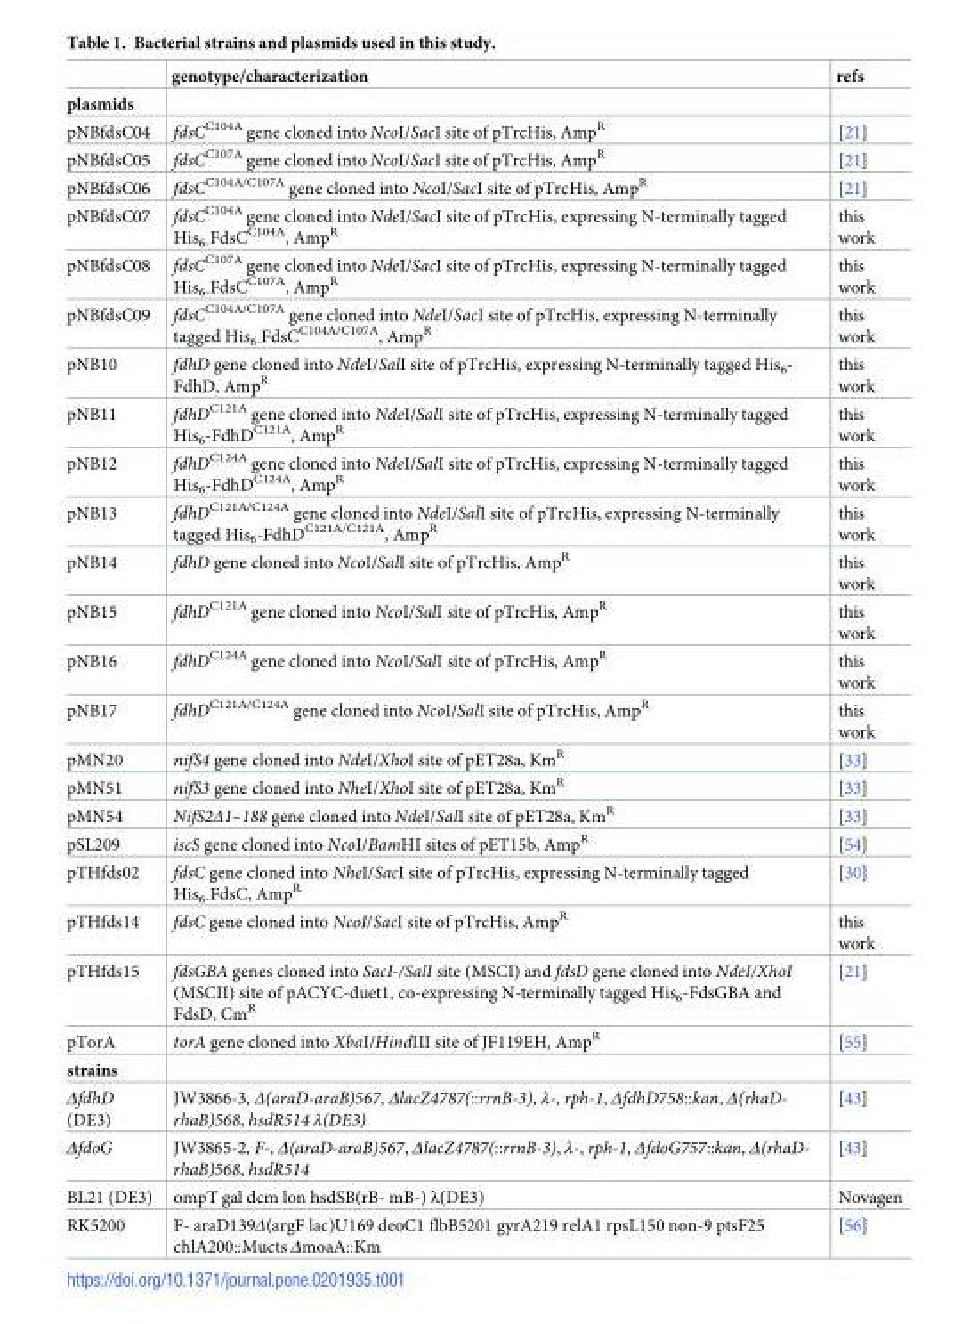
<table><thead><tr><td></td><td>genotype/characterization</td><td>refs</td></tr></thead><tbody><tr><td colspan="3">plasmids</td></tr><tr><td>pNBfdsC04</td><td>fdsC<sup>C104A</sup> gene cloned into NcoI/SacI site of pTrcHis, Amp<sup>R</sup></td><td>[21]</td></tr><tr><td>pNBfdsC05</td><td>fdsC<sup>C107A</sup> gene cloned into NcoI/SacI site of pTrcHis, Amp<sup>R</sup></td><td>[21]</td></tr><tr><td>pNBfdsC06</td><td>fdsC<sup>C104A/C107A</sup> gene cloned into NcoI/SacI site of pTrcHis, Amp<sup>R</sup></td><td>[21]</td></tr><tr><td>pNBfdsC07</td><td>fdsC<sup>C104A</sup> gene cloned into NdeI/SacI site of pTrcHis, expressing N-terminally tagged His<sub>6-</sub>FdsC<sup>C104A</sup>, Amp<sup>R</sup></td><td>this work</td></tr><tr><td>pNBfdsC08</td><td>fdsC<sup>C107A</sup> gene cloned into NdeI/SacI site of pTrcHis, expressing N-terminally tagged His<sub>6-</sub>FdsC<sup>C107A</sup>, Amp<sup>R</sup></td><td>this work</td></tr><tr><td>pNBfdsC09</td><td>fdsC<sup>C104A/C107A</sup> gene cloned into NdeI/SacI site of pTrcHis, expressing N-terminally tagged His<sub>6-</sub>FdsC<sup>C104A/C107A</sup>, Amp<sup>R</sup></td><td>this work</td></tr><tr><td>pNB10</td><td>fdhD gene cloned into NdeI/SalI site of pTrcHis, expressing N-terminally tagged His<sub>6</sub>- FdhD, Amp<sup>R</sup></td><td>this work</td></tr><tr><td>pNB11</td><td>fdhD<sup>C121A</sup> gene cloned into NdeI/SalI site of pTrcHis, expressing N-terminally tagged His<sub>6</sub>-FdhD<sup>C121A</sup>, Amp<sup>R</sup></td><td>this work</td></tr><tr><td>pNB12</td><td>fdhD<sup>C124A</sup> gene cloned into NdeI/SalI site of pTrcHis, expressing N-terminally tagged His<sub>6</sub>-FdhD<sup>C124A</sup>, Amp<sup>R</sup></td><td>this work</td></tr><tr><td>pNB13</td><td>fdhD<sup>C121A/C124A</sup> gene cloned into NdeI/SalI site of pTrcHis, expressing N-terminally tagged His<sub>6</sub>-FdhD<sup>C121A/C121A</sup>, Amp<sup>R</sup></td><td>this work</td></tr><tr><td>pNB14</td><td>fdhD gene cloned into NcoI/SalI site of pTrcHis, Amp<sup>R</sup></td><td>this work</td></tr><tr><td>pNB15</td><td>fdhD<sup>C121A</sup> gene cloned into NcoI/SalI site of pTrcHis, Amp<sup>R</sup></td><td>this work</td></tr><tr><td>pNB16</td><td>fdhD<sup>C124A</sup> gene cloned into NcoI/SalI site of pTrcHis, Amp<sup>R</sup></td><td>this work</td></tr><tr><td>pNB17</td><td>fdhD<sup>C121A/C124A</sup> gene cloned into NcoI/SalI site of pTrcHis, Amp<sup>R</sup></td><td>this work</td></tr><tr><td>pMN20</td><td>nifS4 gene cloned into NdeI/XhoI site of pET28a, Km<sup>R</sup></td><td>[33]</td></tr><tr><td>pMN51</td><td>nifS3 gene cloned into NheI/XhoI site of pET28a, Km<sup>R</sup></td><td>[33]</td></tr><tr><td>pMN54</td><td>NifS2Δ1–188 gene cloned into NdeI/SalI site of pET28a, Km<sup>R</sup></td><td>[33]</td></tr><tr><td>pSL209</td><td>iscS gene cloned into NcoI/BamHI sites of pET15b, Amp<sup>R</sup></td><td>[54]</td></tr><tr><td>pTHfds02</td><td>fdsC gene cloned into NheI/SacI site of pTrcHis, expressing N-terminally tagged His<sub>6-</sub>FdsC, Amp<sup>R</sup></td><td>[30]</td></tr><tr><td>pTHfds14</td><td>fdsC gene cloned into NcoI/SacI site of pTrcHis, Amp<sup>R</sup></td><td>this work</td></tr><tr><td>pTHfds15</td><td>fdsGBA genes cloned into SacI-/SalI site (MSCI) and fdsD gene cloned into NdeI/XhoI (MSCII) site of pACYC-duet1, co-expressing N-terminally tagged His<sub>6</sub>-FdsGBA and FdsD, Cm<sup>R</sup></td><td>[21]</td></tr><tr><td>pTorA</td><td>torA gene cloned into XbaI/HindIII site of JF119EH, Amp<sup>R</sup></td><td>[55]</td></tr><tr><td colspan="3">strains</td></tr><tr><td>ΔfdhD (DE3)</td><td>JW3866-3, Δ(araD-araB)567, ΔlacZ4787(::rrnB-3), λ-, rph-1, ΔfdhD758::kan, Δ(rhaD- rhaB)568, hsdR514 λ(DE3)</td><td>[43]</td></tr><tr><td>ΔfdoG</td><td>JW3865-2, F-, Δ(araD-araB)567, ΔlacZ4787(::rrnB-3), λ-, rph-1, ΔfdoG757::kan, Δ(rhaD- rhaB)568, hsdR514</td><td>[43]</td></tr><tr><td>BL21 (DE3)</td><td>ompT gal dcm lon hsdSB(rB- mB-) λ(DE3)</td><td>Novagen</td></tr><tr><td>RK5200</td><td>F- araD139Δ(argF lac)U169 deoC1 flbB5201 gyrA219 relA1 rpsL150 non-9 ptsF25 chlA200::Mucts ΔmoaA::Km</td><td>[56]</td></tr></tbody></table>